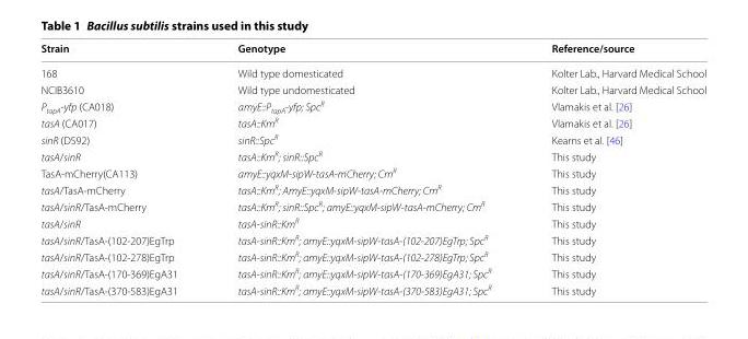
<table><thead><tr><td>Strain</td><td>Genotype</td><td>Reference/source</td></tr></thead><tbody><tr><td>168</td><td>Wild type domesticated</td><td>Kolter Lab., Harvard Medical School</td></tr><tr><td>NCIB3610</td><td>Wild type undomesticated</td><td>Kolter Lab., Harvard Medical School</td></tr><tr><td>P<sub>tapA</sub>-yfp (CA018)</td><td>amyE::P<sub>tapA</sub>-yfp; Spc<sup>R</sup></td><td>Vlamakis et al. [26]</td></tr><tr><td>tasA (CA017)</td><td>tasA::Km<sup>R</sup></td><td>Vlamakis et al. [26]</td></tr><tr><td>sinR (DS92)</td><td>sinR::Spc<sup>R</sup></td><td>Kearns et al. [46]</td></tr><tr><td>tasA/sinR</td><td>tasA::Km<sup>R</sup>; sinR::Spc<sup>R</sup></td><td>This study</td></tr><tr><td>TasA-mCherry(CA113)</td><td>amyE::yqxM-sipW-tasA-mCherry; Cm<sup>R</sup></td><td>This study</td></tr><tr><td>tasA/TasA-mCherry</td><td>tasA::Km<sup>R</sup>; AmyE::yqxM-sipW-tasA-mCherry; Cm<sup>R</sup></td><td>This study</td></tr><tr><td>tasA/sinR/TasA-mCherry</td><td>tasA::Km<sup>R</sup>; sinR::Spc<sup>R</sup>; amyE::yqxM-sipW-tasA-mCherry; Cm<sup>R</sup></td><td>This study</td></tr><tr><td>tasA/sinR</td><td>tasA-sinR::Km<sup>R</sup></td><td>This study</td></tr><tr><td>tasA/sinR/TasA-(102-207)EgTrp</td><td>tasA-sinR::Km<sup>R</sup>; amyE::yqxM-sipW-tasA-(102-207)EgTrp; Spc<sup>R</sup></td><td>This study</td></tr><tr><td>tasA/sinR/TasA-(102-278)EgTrp</td><td>tasA-sinR::Km<sup>R</sup>; amyE::yqxM-sipW-tasA-(102-278)EgTrp; Spc<sup>R</sup></td><td>This study</td></tr><tr><td>tasA/sinR/TasA-(170-369)EgA31</td><td>tasA-sinR::Km<sup>R</sup>; amyE::yqxM-sipW-tasA-(170-369)EgA31; Spc<sup>R</sup></td><td>This study</td></tr><tr><td>tasA/sinR/TasA-(370-583)EgA31</td><td>tasA-sinR::Km<sup>R</sup>; amyE::yqxM-sipW-tasA-(370-583)EgA31; Spc<sup>R</sup></td><td>This study</td></tr></tbody></table>